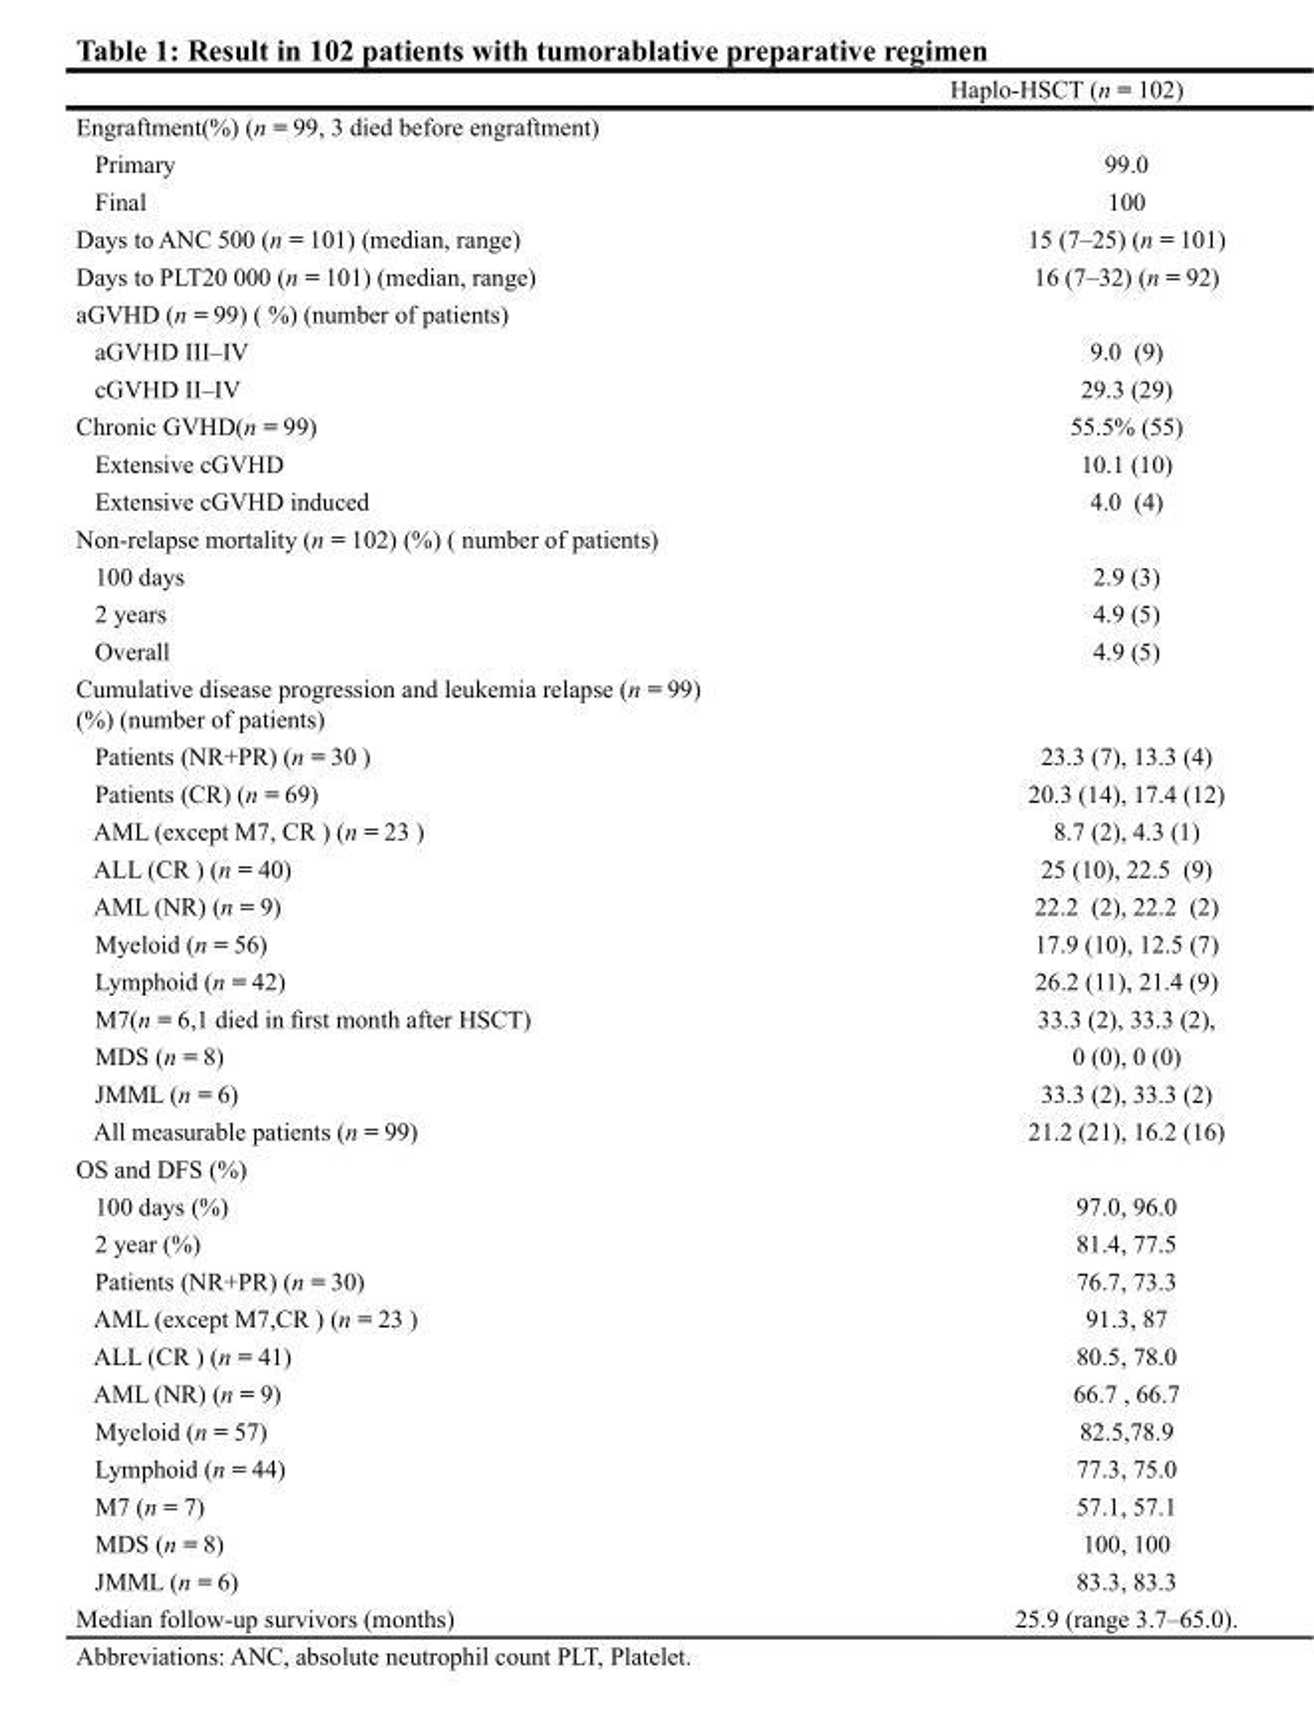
<table><thead><tr><td></td><td>Haplo-HSCT (n = 102)</td></tr></thead><tbody><tr><td colspan="2">Engraftment(%) (n = 99, 3 died before engraftment)</td></tr><tr><td>Primary</td><td>99.0</td></tr><tr><td>Final</td><td>100</td></tr><tr><td>Days to ANC 500 (n = 101) (median, range)</td><td>15 (7–25) (n = 101)</td></tr><tr><td>Days to PLT20 000 (n = 101) (median, range)</td><td>16 (7–32) (n = 92)</td></tr><tr><td colspan="2">aGVHD (n = 99) ( %) (number of patients)</td></tr><tr><td>aGVHD III–IV</td><td>9.0 (9)</td></tr><tr><td>cGVHD II–IV</td><td>29.3 (29)</td></tr><tr><td>Chronic GVHD(n = 99)</td><td>55.5% (55)</td></tr><tr><td>Extensive cGVHD</td><td>10.1 (10)</td></tr><tr><td>Extensive cGVHD induced</td><td>4.0 (4)</td></tr><tr><td colspan="2">Non-relapse mortality (n = 102) (%) ( number of patients)</td></tr><tr><td>100 days</td><td>2.9 (3)</td></tr><tr><td>2 years</td><td>4.9 (5)</td></tr><tr><td>Overall</td><td>4.9 (5)</td></tr><tr><td colspan="2">Cumulative disease progression and leukemia relapse (n = 99) (%) (number of patients)</td></tr><tr><td>Patients (NR+PR) (n = 30 )</td><td>23.3 (7), 13.3 (4)</td></tr><tr><td>Patients (CR) (n = 69)</td><td>20.3 (14), 17.4 (12)</td></tr><tr><td>AML (except M7, CR ) (n = 23 )</td><td>8.7 (2), 4.3 (1)</td></tr><tr><td>ALL (CR ) (n = 40)</td><td>25 (10), 22.5 (9)</td></tr><tr><td>AML (NR) (n = 9)</td><td>22.2 (2), 22.2 (2)</td></tr><tr><td>Myeloid (n = 56)</td><td>17.9 (10), 12.5 (7)</td></tr><tr><td>Lymphoid (n = 42)</td><td>26.2 (11), 21.4 (9)</td></tr><tr><td>M7(n = 6,1 died in first month after HSCT)</td><td>33.3 (2), 33.3 (2),</td></tr><tr><td>MDS (n = 8)</td><td>0 (0), 0 (0)</td></tr><tr><td>JMML (n = 6)</td><td>33.3 (2), 33.3 (2)</td></tr><tr><td>All measurable patients (n = 99)</td><td>21.2 (21), 16.2 (16)</td></tr><tr><td colspan="2">OS and DFS (%)</td></tr><tr><td>100 days (%)</td><td>97.0, 96.0</td></tr><tr><td>2 year (%)</td><td>81.4, 77.5</td></tr><tr><td>Patients (NR+PR) (n = 30)</td><td>76.7, 73.3</td></tr><tr><td>AML (except M7,CR ) (n = 23 )</td><td>91.3, 87</td></tr><tr><td>ALL (CR ) (n = 41)</td><td>80.5, 78.0</td></tr><tr><td>AML (NR) (n = 9)</td><td>66.7 , 66.7</td></tr><tr><td>Myeloid (n = 57)</td><td>82.5,78.9</td></tr><tr><td>Lymphoid (n = 44)</td><td>77.3, 75.0</td></tr><tr><td>M7 (n = 7)</td><td>57.1, 57.1</td></tr><tr><td>MDS (n = 8)</td><td>100, 100</td></tr><tr><td>JMML (n = 6)</td><td>83.3, 83.3</td></tr><tr><td>Median follow-up survivors (months)</td><td>25.9 (range 3.7–65.0).</td></tr></tbody></table>